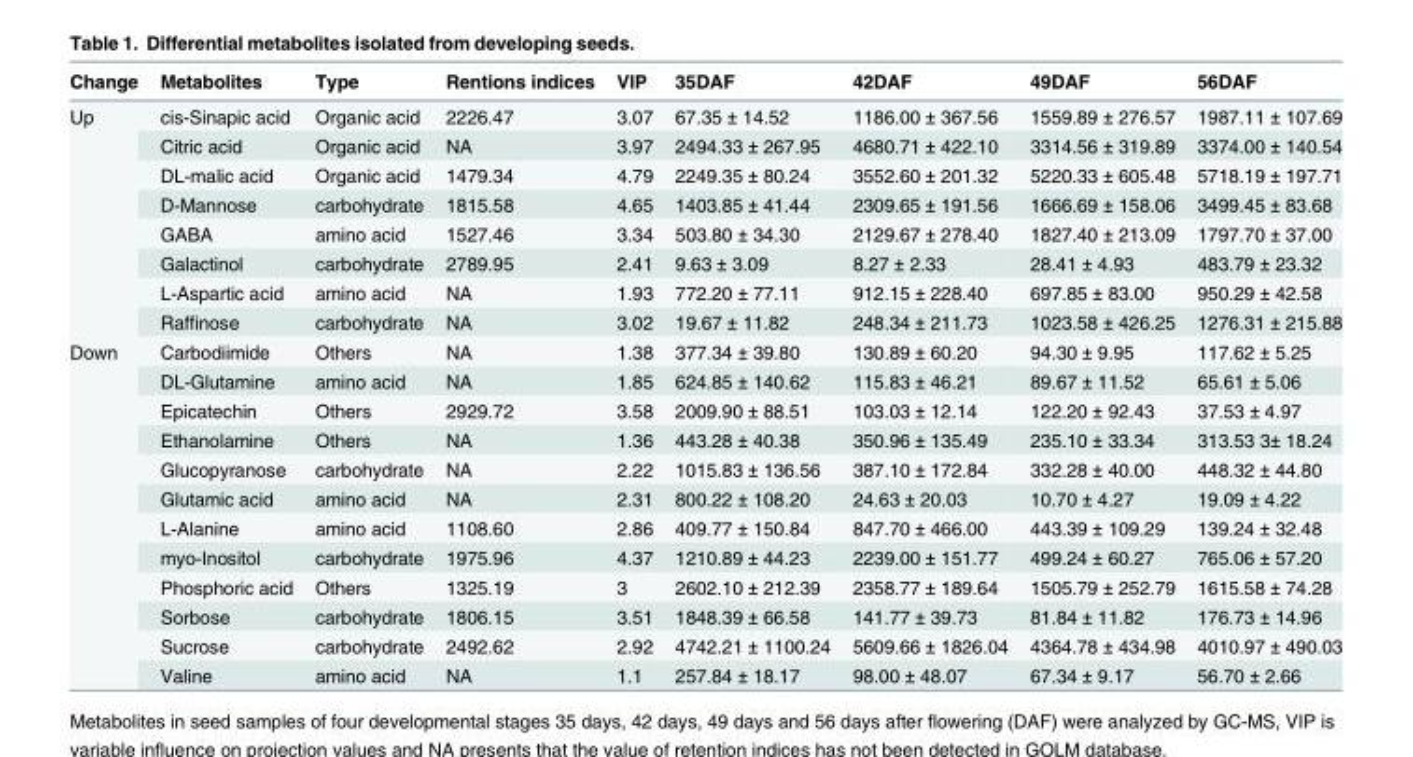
<table><thead><tr><td>Change</td><td>Metabolites</td><td>Type</td><td>Rentions indices</td><td>VIP</td><td>35DAF</td><td>42DAF</td><td>49DAF</td><td>56DAF</td></tr></thead><tbody><tr><td rowspan="8">Up</td><td>cis-Sinapic acid</td><td>Organic acid</td><td>2226.47</td><td>3.07</td><td>67.35 ± 14.52</td><td>1186.00 ± 367.56</td><td>1559.89 ± 276.57</td><td>1987.11 ± 107.69</td></tr><tr><td>Citric acid</td><td>Organic acid</td><td>NA</td><td>3.97</td><td>2494.33 ± 267.95</td><td>4680.71 ± 422.10</td><td>3314.56 ± 319.89</td><td>3374.00 ± 140.54</td></tr><tr><td>DL-malic acid</td><td>Organic acid</td><td>1479.34</td><td>4.79</td><td>2249.35 ± 80.24</td><td>3552.60 ± 201.32</td><td>5220.33 ± 605.48</td><td>5718.19 ± 197.71</td></tr><tr><td>D-Mannose</td><td>carbohydrate</td><td>1815.58</td><td>4.65</td><td>1403.85 ± 41.44</td><td>2309.65 ± 191.56</td><td>1666.69 ± 158.06</td><td>3499.45 ± 83.68</td></tr><tr><td>GABA</td><td>amino acid</td><td>1527.46</td><td>3.34</td><td>503.80 ± 34.30</td><td>2129.67 ± 278.40</td><td>1827.40 ± 213.09</td><td>1797.70 ± 37.00</td></tr><tr><td>Galactinol</td><td>carbohydrate</td><td>2789.95</td><td>2.41</td><td>9.63 ± 3.09</td><td>8.27 ± 2.33</td><td>28.41 ± 4.93</td><td>483.79 ± 23.32</td></tr><tr><td>L-Aspartic acid</td><td>amino acid</td><td>NA</td><td>1.93</td><td>772.20 ± 77.11</td><td>912.15 ± 228.40</td><td>697.85 ± 83.00</td><td>950.29 ± 42.58</td></tr><tr><td>Raffinose</td><td>carbohydrate</td><td>NA</td><td>3.02</td><td>19.67 ± 11.82</td><td>248.34 ± 211.73</td><td>1023.58 ± 426.25</td><td>1276.31 ± 215.88</td></tr><tr><td rowspan="12">Down</td><td>Carbodiimide</td><td>Others</td><td>NA</td><td>1.38</td><td>377.34 ± 39.80</td><td>130.89 ± 60.20</td><td>94.30 ± 9.95</td><td>117.62 ± 5.25</td></tr><tr><td>DL-Glutamine</td><td>amino acid</td><td>NA</td><td>1.85</td><td>624.85 ± 140.62</td><td>115.83 ± 46.21</td><td>89.67 ± 11.52</td><td>65.61 ± 5.06</td></tr><tr><td>Epicatechin</td><td>Others</td><td>2929.72</td><td>3.58</td><td>2009.90 ± 88.51</td><td>103.03 ± 12.14</td><td>122.20 ± 92.43</td><td>37.53 ± 4.97</td></tr><tr><td>Ethanolamine</td><td>Others</td><td>NA</td><td>1.36</td><td>443.28 ± 40.38</td><td>350.96 ± 135.49</td><td>235.10 ± 33.34</td><td>313.53 3± 18.24</td></tr><tr><td>Glucopyranose</td><td>carbohydrate</td><td>NA</td><td>2.22</td><td>1015.83 ± 136.56</td><td>387.10 ± 172.84</td><td>332.28 ± 40.00</td><td>448.32 ± 44.80</td></tr><tr><td>Glutamic acid</td><td>amino acid</td><td>NA</td><td>2.31</td><td>800.22 ± 108.20</td><td>24.63 ± 20.03</td><td>10.70 ± 4.27</td><td>19.09 ± 4.22</td></tr><tr><td>L-Alanine</td><td>amino acid</td><td>1108.60</td><td>2.86</td><td>409.77 ± 150.84</td><td>847.70 ± 466.00</td><td>443.39 ± 109.29</td><td>139.24 ± 32.48</td></tr><tr><td>myo-Inositol</td><td>carbohydrate</td><td>1975.96</td><td>4.37</td><td>1210.89 ± 44.23</td><td>2239.00 ± 151.77</td><td>499.24 ± 60.27</td><td>765.06 ± 57.20</td></tr><tr><td>Phosphoric acid</td><td>Others</td><td>1325.19</td><td>3</td><td>2602.10 ± 212.39</td><td>2358.77 ± 189.64</td><td>1505.79 ± 252.79</td><td>1615.58 ± 74.28</td></tr><tr><td>Sorbose</td><td>carbohydrate</td><td>1806.15</td><td>3.51</td><td>1848.39 ± 66.58</td><td>141.77 ± 39.73</td><td>81.84 ± 11.82</td><td>176.73 ± 14.96</td></tr><tr><td>Sucrose</td><td>carbohydrate</td><td>2492.62</td><td>2.92</td><td>4742.21 ± 1100.24</td><td>5609.66 ± 1826.04</td><td>4364.78 ± 434.98</td><td>4010.97 ± 490.03</td></tr><tr><td>Valine</td><td>amino acid</td><td>NA</td><td>1.1</td><td>257.84 ± 18.17</td><td>98.00 ± 48.07</td><td>67.34 ± 9.17</td><td>56.70 ± 2.66</td></tr></tbody></table>